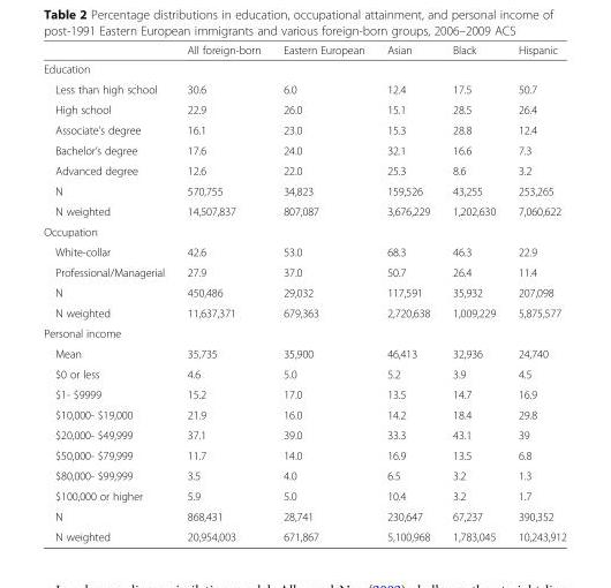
<table><thead><tr><td></td><td>All foreign-born</td><td>Eastern European</td><td>Asian</td><td>Black</td><td>Hispanic</td></tr></thead><tbody><tr><td colspan="6">Education</td></tr><tr><td>Less than high school</td><td>30.6</td><td>6.0</td><td>12.4</td><td>17.5</td><td>50.7</td></tr><tr><td>High school</td><td>22.9</td><td>26.0</td><td>15.1</td><td>28.5</td><td>26.4</td></tr><tr><td>Associate’s degree</td><td>16.1</td><td>23.0</td><td>15.3</td><td>28.8</td><td>12.4</td></tr><tr><td>Bachelor’s degree</td><td>17.6</td><td>24.0</td><td>32.1</td><td>16.6</td><td>7.3</td></tr><tr><td>Advanced degree</td><td>12.6</td><td>22.0</td><td>25.3</td><td>8.6</td><td>3.2</td></tr><tr><td>N</td><td>570,755</td><td>34,823</td><td>159,526</td><td>43,255</td><td>253,265</td></tr><tr><td>N weighted</td><td>14,507,837</td><td>807,087</td><td>3,676,229</td><td>1,202,630</td><td>7,060,622</td></tr><tr><td colspan="6">Occupation</td></tr><tr><td>White-collar</td><td>42.6</td><td>53.0</td><td>68.3</td><td>46.3</td><td>22.9</td></tr><tr><td>Professional/Managerial</td><td>27.9</td><td>37.0</td><td>50.7</td><td>26.4</td><td>11.4</td></tr><tr><td>N</td><td>450,486</td><td>29,032</td><td>117,591</td><td>35,932</td><td>207,098</td></tr><tr><td>N weighted</td><td>11,637,371</td><td>679,363</td><td>2,720,638</td><td>1,009,229</td><td>5,875,577</td></tr><tr><td colspan="6">Personal income</td></tr><tr><td>Mean</td><td>35,735</td><td>35,900</td><td>46,413</td><td>32,936</td><td>24,740</td></tr><tr><td>$0 or less</td><td>4.6</td><td>5.0</td><td>5.2</td><td>3.9</td><td>4.5</td></tr><tr><td>$1- $9999</td><td>15.2</td><td>17.0</td><td>13.5</td><td>14.7</td><td>16.9</td></tr><tr><td>$10,000- $19,000</td><td>21.9</td><td>16.0</td><td>14.2</td><td>18.4</td><td>29.8</td></tr><tr><td>$20,000- $49,999</td><td>37.1</td><td>39.0</td><td>33.3</td><td>43.1</td><td>39</td></tr><tr><td>$50,000- $79,999</td><td>11.7</td><td>14.0</td><td>16.9</td><td>13.5</td><td>6.8</td></tr><tr><td>$80,000- $99,999</td><td>3.5</td><td>4.0</td><td>6.5</td><td>3.2</td><td>1.3</td></tr><tr><td>$100,000 or higher</td><td>5.9</td><td>5.0</td><td>10.4</td><td>3.2</td><td>1.7</td></tr><tr><td>N</td><td>868,431</td><td>28,741</td><td>230,647</td><td>67,237</td><td>390,352</td></tr><tr><td>N weighted</td><td>20,954,003</td><td>671,867</td><td>5,100,968</td><td>1,783,045</td><td>10,243,912</td></tr></tbody></table>